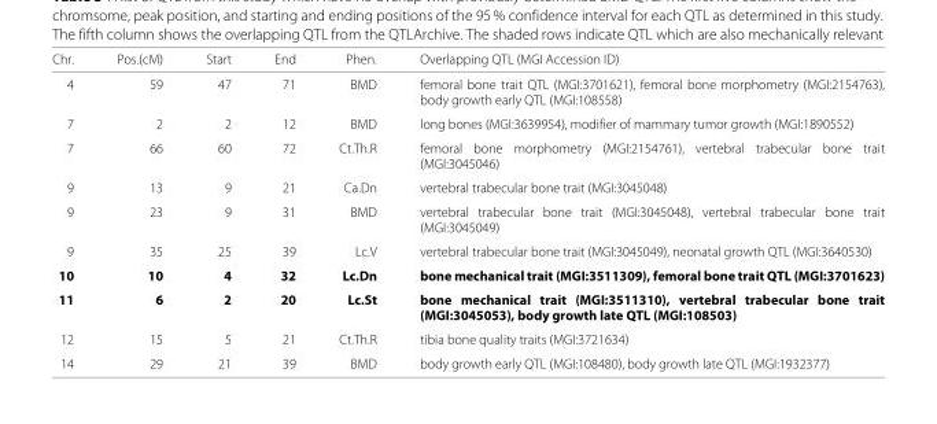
<table><thead><tr><td>Chr.</td><td>Pos.(cM)</td><td>Start</td><td>End</td><td>Phen.</td><td>Overlapping QTL (MGI Accession ID)</td></tr></thead><tbody><tr><td>4</td><td>59</td><td>47</td><td>71</td><td>BMD</td><td>femoral bone trait QTL (MGI:3701621), femoral bone morphometry (MGI:2154763), body growth early QTL (MGI:108558)</td></tr><tr><td>7</td><td>2</td><td>2</td><td>12</td><td>BMD</td><td>long bones (MGI:3639954), modifier of mammary tumor growth (MGI:1890552)</td></tr><tr><td>7</td><td>66</td><td>60</td><td>72</td><td>Ct.Th.R</td><td>femoral bone morphometry (MGI:2154761), vertebral trabecular bone trait (MGI:3045046)</td></tr><tr><td>9</td><td>13</td><td>9</td><td>21</td><td>Ca.Dn</td><td>vertebral trabecular bone trait (MGI:3045048)</td></tr><tr><td>9</td><td>23</td><td>9</td><td>31</td><td>BMD</td><td>vertebral trabecular bone trait (MGI:3045048), vertebral trabecular bone trait (MGI:3045049)</td></tr><tr><td>9</td><td>35</td><td>25</td><td>39</td><td>Lc.V</td><td>vertebral trabecular bone trait (MGI:3045049), neonatal growth QTL (MGI:3640530)</td></tr><tr><td>10</td><td>10</td><td>4</td><td>32</td><td>Lc.Dn</td><td>bone mechanical trait (MGI:3511309), femoral bone trait QTL (MGI:3701623)</td></tr><tr><td>11</td><td>6</td><td>2</td><td>20</td><td>Lc.St</td><td>bone mechanical trait (MGI:3511310), vertebral trabecular bone trait (MGI:3045053), body growth late QTL (MGI:108503)</td></tr><tr><td>12</td><td>15</td><td>5</td><td>21</td><td>Ct.Th.R</td><td>tibia bone quality traits (MGI:3721634)</td></tr><tr><td>14</td><td>29</td><td>21</td><td>39</td><td>BMD</td><td>body growth early QTL (MGI:108480), body growth late QTL (MGI:1932377)</td></tr></tbody></table>